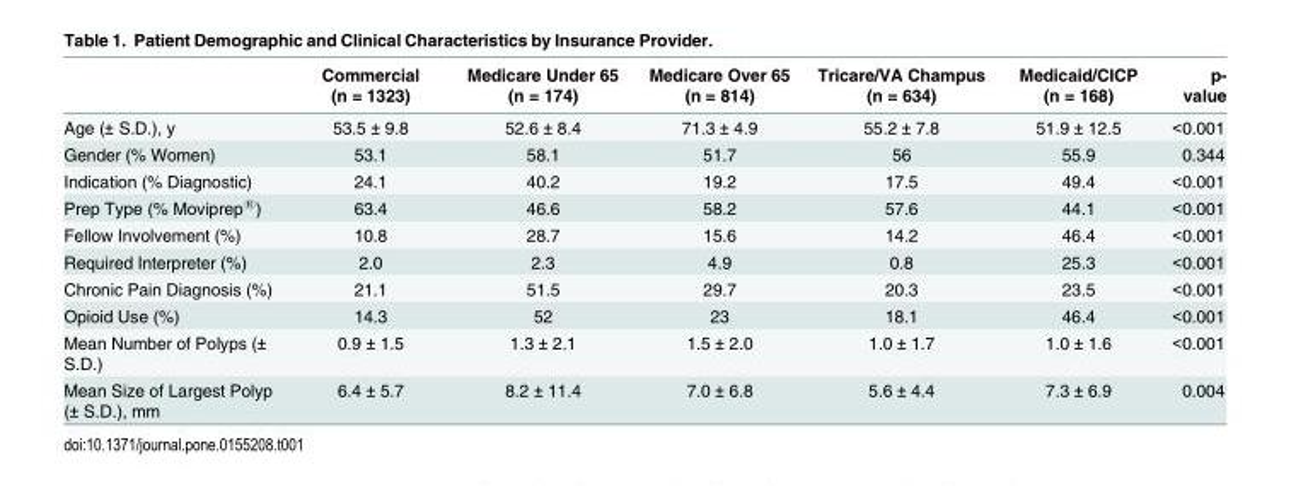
<table><thead><tr><td></td><td>Commercial (n = 1323)</td><td>Medicare Under 65 (n = 174)</td><td>Medicare Over 65 (n = 814)</td><td>Tricare/VA Champus (n = 634)</td><td>Medicaid/CICP (n = 168)</td><td>p- value</td></tr></thead><tbody><tr><td>Age (± S.D.), y</td><td>53.5 ± 9.8</td><td>52.6 ± 8.4</td><td>71.3 ± 4.9</td><td>55.2 ± 7.8</td><td>51.9 ± 12.5</td><td>&lt;0.001</td></tr><tr><td>Gender (% Women)</td><td>53.1</td><td>58.1</td><td>51.7</td><td>56</td><td>55.9</td><td>0.344</td></tr><tr><td>Indication (% Diagnostic)</td><td>24.1</td><td>40.2</td><td>19.2</td><td>17.5</td><td>49.4</td><td>&lt;0.001</td></tr><tr><td>Prep Type (% Moviprep<sup>®</sup>)</td><td>63.4</td><td>46.6</td><td>58.2</td><td>57.6</td><td>44.1</td><td>&lt;0.001</td></tr><tr><td>Fellow Involvement (%)</td><td>10.8</td><td>28.7</td><td>15.6</td><td>14.2</td><td>46.4</td><td>&lt;0.001</td></tr><tr><td>Required Interpreter (%)</td><td>2.0</td><td>2.3</td><td>4.9</td><td>0.8</td><td>25.3</td><td>&lt;0.001</td></tr><tr><td>Chronic Pain Diagnosis (%)</td><td>21.1</td><td>51.5</td><td>29.7</td><td>20.3</td><td>23.5</td><td>&lt;0.001</td></tr><tr><td>Opioid Use (%)</td><td>14.3</td><td>52</td><td>23</td><td>18.1</td><td>46.4</td><td>&lt;0.001</td></tr><tr><td>Mean Number of Polyps (± S.D.)</td><td>0.9 ± 1.5</td><td>1.3 ± 2.1</td><td>1.5 ± 2.0</td><td>1.0 ± 1.7</td><td>1.0 ± 1.6</td><td>&lt;0.001</td></tr><tr><td>Mean Size of Largest Polyp (± S.D.), mm</td><td>6.4 ± 5.7</td><td>8.2 ± 11.4</td><td>7.0 ± 6.8</td><td>5.6 ± 4.4</td><td>7.3 ± 6.9</td><td>0.004</td></tr></tbody></table>